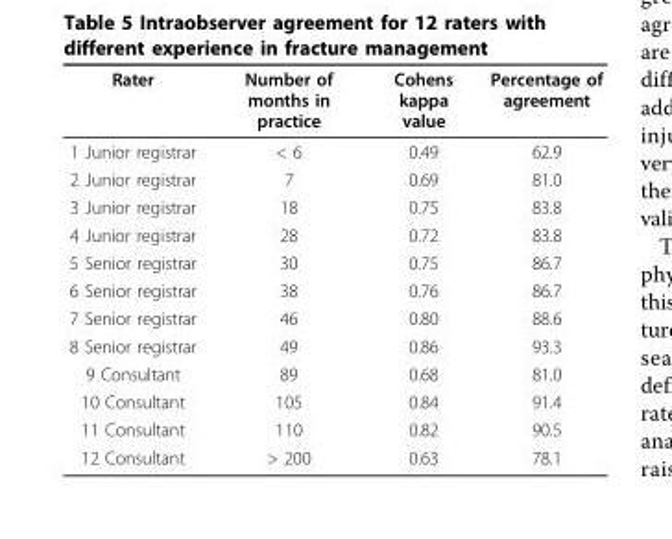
<table><thead><tr><td>Rater</td><td>Number of months in practice</td><td>Cohens kappa value</td><td>Percentage of agreement</td></tr></thead><tbody><tr><td>1 Junior registrar</td><td>&lt; 6</td><td>0.49</td><td>62.9</td></tr><tr><td>2 Junior registrar</td><td>7</td><td>0.69</td><td>81.0</td></tr><tr><td>3 Junior registrar</td><td>18</td><td>0.75</td><td>83.8</td></tr><tr><td>4 Junior registrar</td><td>28</td><td>0.72</td><td>83.8</td></tr><tr><td>5 Senior registrar</td><td>30</td><td>0.75</td><td>86.7</td></tr><tr><td>6 Senior registrar</td><td>38</td><td>0.76</td><td>86.7</td></tr><tr><td>7 Senior registrar</td><td>46</td><td>0.80</td><td>88.6</td></tr><tr><td>8 Senior registrar</td><td>49</td><td>0.86</td><td>93.3</td></tr><tr><td>9 Consultant</td><td>89</td><td>0.68</td><td>81.0</td></tr><tr><td>10 Consultant</td><td>105</td><td>0.84</td><td>91.4</td></tr><tr><td>11 Consultant</td><td>110</td><td>0.82</td><td>90.5</td></tr><tr><td>12 Consultant</td><td>&gt; 200</td><td>0.63</td><td>78.1</td></tr></tbody></table>